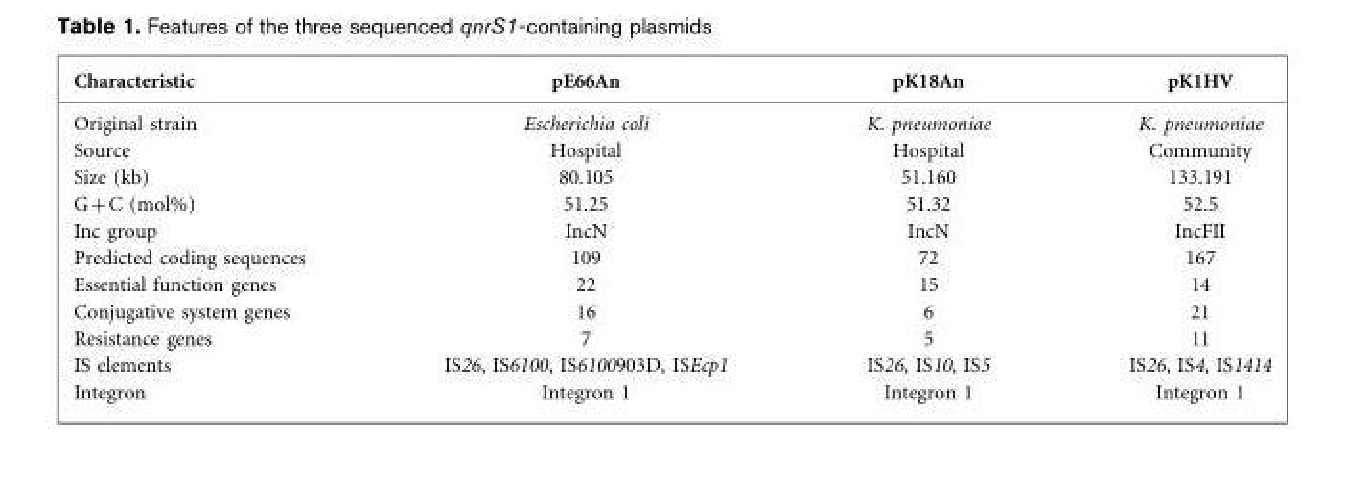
<table><thead><tr><td>Characteristic</td><td>pE66An</td><td>pK18An</td><td>pK1HV</td></tr></thead><tbody><tr><td>Original strain</td><td>Escherichia coli</td><td>K. pneumoniae</td><td>K. pneumoniae</td></tr><tr><td>Source</td><td>Hospital</td><td>Hospital</td><td>Community</td></tr><tr><td>Size (kb)</td><td>80.105</td><td>51.160</td><td>133.191</td></tr><tr><td>G+C (mol%)</td><td>51.25</td><td>51.32</td><td>52.5</td></tr><tr><td>Inc group</td><td>IncN</td><td>IncN</td><td>IncFII</td></tr><tr><td>Predicted coding sequences</td><td>109</td><td>72</td><td>167</td></tr><tr><td>Essential function genes</td><td>22</td><td>15</td><td>14</td></tr><tr><td>Conjugative system genes</td><td>16</td><td>6</td><td>21</td></tr><tr><td>Resistance genes</td><td>7</td><td>5</td><td>11</td></tr><tr><td>IS elements</td><td>IS26, IS6100, IS6100903D, ISEcp1</td><td>IS26, IS10, IS5</td><td>IS26, IS4, IS1414</td></tr><tr><td>Integron</td><td>Integron 1</td><td>Integron 1</td><td>Integron 1</td></tr></tbody></table>